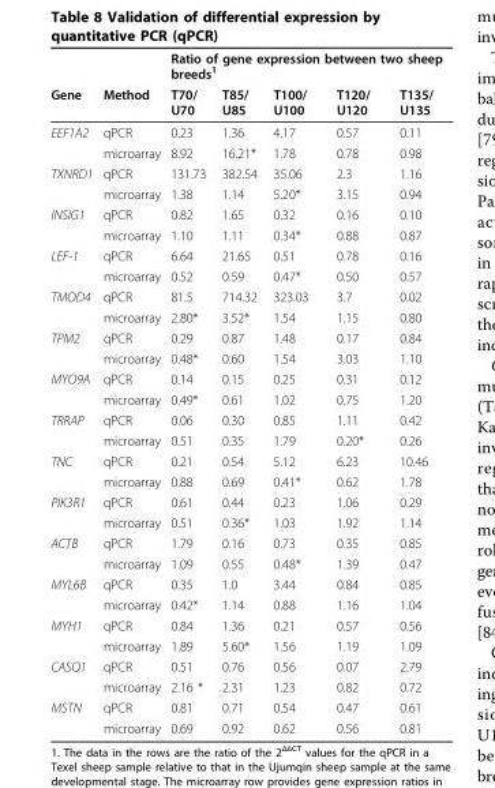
<table><thead><tr><td rowspan="2">Gene</td><td rowspan="2">Method</td><td colspan="5">Ratio of gene expression between two sheep breeds<sup>1</sup></td></tr><tr><td>T70/ U70</td><td>T85/ U85</td><td>T100/ U100</td><td>T120/ U120</td><td>T135/ U135</td></tr></thead><tbody><tr><td rowspan="2">EEF1A2</td><td>qPCR</td><td>0.23</td><td>1.36</td><td>4.17</td><td>0.57</td><td>0.11</td></tr><tr><td>microarray</td><td>8.92</td><td>16.21*</td><td>1.78</td><td>0.78</td><td>0.98</td></tr><tr><td rowspan="2">TXNRD1</td><td>qPCR</td><td>131.73</td><td>382.54</td><td>35.06</td><td>2.3</td><td>1.16</td></tr><tr><td>microarray</td><td>1.38</td><td>1.14</td><td>5.20*</td><td>3.15</td><td>0.94</td></tr><tr><td rowspan="2">INSIG1</td><td>qPCR</td><td>0.82</td><td>1.65</td><td>0.32</td><td>0.16</td><td>0.10</td></tr><tr><td>microarray</td><td>1.10</td><td>1.11</td><td>0.34*</td><td>0.88</td><td>0.87</td></tr><tr><td rowspan="2">LEF-1</td><td>qPCR</td><td>6.64</td><td>21.65</td><td>0.51</td><td>0.78</td><td>0.16</td></tr><tr><td>microarray</td><td>0.52</td><td>0.59</td><td>0.47*</td><td>0.50</td><td>0.57</td></tr><tr><td rowspan="2">TMOD4</td><td>qPCR</td><td>81.5</td><td>714.32</td><td>323.03</td><td>3.7</td><td>0.02</td></tr><tr><td>microarray</td><td>2.80*</td><td>3.52*</td><td>1.54</td><td>1.15</td><td>0.80</td></tr><tr><td rowspan="2">TPM2</td><td>qPCR</td><td>0.29</td><td>0.87</td><td>1.48</td><td>0.17</td><td>0.84</td></tr><tr><td>microarray</td><td>0.48*</td><td>0.60</td><td>1.54</td><td>3.03</td><td>1.10</td></tr><tr><td rowspan="2">MYO9A</td><td>qPCR</td><td>0.14</td><td>0.15</td><td>0.25</td><td>0.31</td><td>0.12</td></tr><tr><td>microarray</td><td>0.49*</td><td>0.61</td><td>1.02</td><td>0.75</td><td>1.20</td></tr><tr><td rowspan="2">TRRAP</td><td>qPCR</td><td>0.06</td><td>0.30</td><td>0.85</td><td>1.11</td><td>0.42</td></tr><tr><td>microarray</td><td>0.51</td><td>0.35</td><td>1.79</td><td>0.20*</td><td>0.26</td></tr><tr><td rowspan="2">TNC</td><td>qPCR</td><td>0.21</td><td>0.54</td><td>5.12</td><td>6.23</td><td>10.46</td></tr><tr><td>microarray</td><td>0.88</td><td>0.69</td><td>0.41*</td><td>0.62</td><td>1.78</td></tr><tr><td rowspan="2">PIK3R1</td><td>qPCR</td><td>0.61</td><td>0.44</td><td>0.23</td><td>1.06</td><td>0.29</td></tr><tr><td>microarray</td><td>0.51</td><td>0.36*</td><td>1.03</td><td>1.92</td><td>1.14</td></tr><tr><td rowspan="2">ACTB</td><td>qPCR</td><td>1.79</td><td>0.16</td><td>0.73</td><td>0.35</td><td>0.85</td></tr><tr><td>microarray</td><td>1.09</td><td>0.55</td><td>0.48*</td><td>1.39</td><td>0.47</td></tr><tr><td rowspan="2">MYL6B</td><td>qPCR</td><td>0.35</td><td>1.0</td><td>3.44</td><td>0.84</td><td>0.85</td></tr><tr><td>microarray</td><td>0.42*</td><td>1.14</td><td>0.88</td><td>1.16</td><td>1.04</td></tr><tr><td rowspan="2">MYH1</td><td>qPCR</td><td>0.84</td><td>1.36</td><td>0.21</td><td>0.57</td><td>0.56</td></tr><tr><td>microarray</td><td>1.89</td><td>5.60*</td><td>1.56</td><td>1.19</td><td>1.09</td></tr><tr><td rowspan="2">CASQ1</td><td>qPCR</td><td>0.51</td><td>0.76</td><td>0.56</td><td>0.07</td><td>2.79</td></tr><tr><td>microarray</td><td>2.16 *</td><td>2.31</td><td>1.23</td><td>0.82</td><td>0.72</td></tr><tr><td rowspan="2">MSTN</td><td>qPCR</td><td>0.81</td><td>0.71</td><td>0.54</td><td>0.47</td><td>0.61</td></tr><tr><td>microarray</td><td>0.69</td><td>0.92</td><td>0.62</td><td>0.56</td><td>0.81</td></tr></tbody></table>